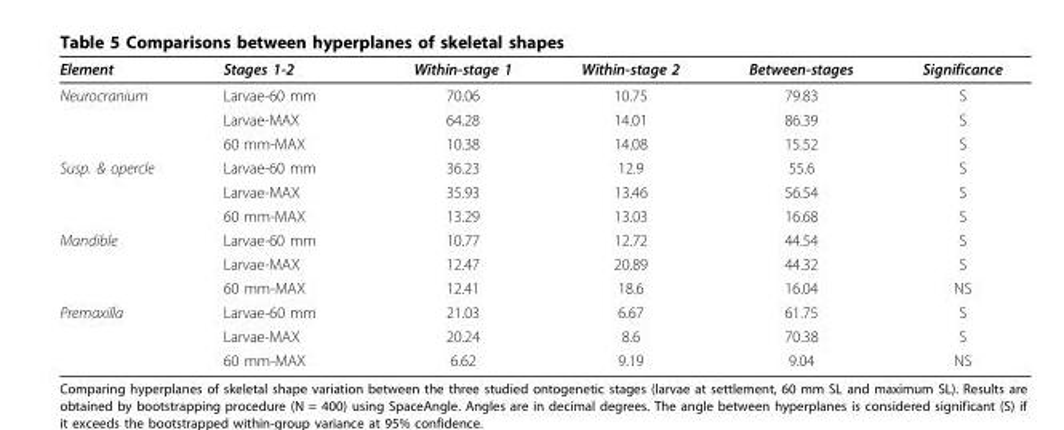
<table><thead><tr><td>Element</td><td>Stages 1-2</td><td>Within-stage 1</td><td>Within-stage 2</td><td>Between-stages</td><td>Significance</td></tr></thead><tbody><tr><td rowspan="3">Neurocranium</td><td>Larvae-60 mm</td><td>70.06</td><td>10.75</td><td>79.83</td><td>S</td></tr><tr><td>Larvae-MAX</td><td>64.28</td><td>14.01</td><td>86.39</td><td>S</td></tr><tr><td>60 mm-MAX</td><td>10.38</td><td>14.08</td><td>15.52</td><td>S</td></tr><tr><td rowspan="3">Susp. &amp; opercle</td><td>Larvae-60 mm</td><td>36.23</td><td>12.9</td><td>55.6</td><td>S</td></tr><tr><td>Larvae-MAX</td><td>35.93</td><td>13.46</td><td>56.54</td><td>S</td></tr><tr><td>60 mm-MAX</td><td>13.29</td><td>13.03</td><td>16.68</td><td>S</td></tr><tr><td rowspan="3">Mandible</td><td>Larvae-60 mm</td><td>10.77</td><td>12.72</td><td>44.54</td><td>S</td></tr><tr><td>Larvae-MAX</td><td>12.47</td><td>20.89</td><td>44.32</td><td>S</td></tr><tr><td>60 mm-MAX</td><td>12.41</td><td>18.6</td><td>16.04</td><td>NS</td></tr><tr><td rowspan="3">Premaxilla</td><td>Larvae-60 mm</td><td>21.03</td><td>6.67</td><td>61.75</td><td>S</td></tr><tr><td>Larvae-MAX</td><td>20.24</td><td>8.6</td><td>70.38</td><td>S</td></tr><tr><td>60 mm-MAX</td><td>6.62</td><td>9.19</td><td>9.04</td><td>NS</td></tr></tbody></table>